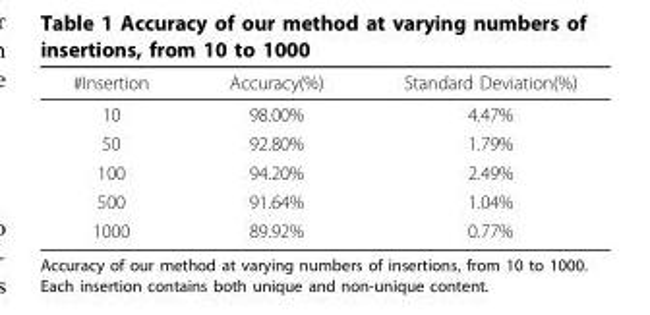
<table><thead><tr><td>#Insertion</td><td>Accuracy(%)</td><td>Standard Deviation(%)</td></tr></thead><tbody><tr><td>10</td><td>98.00%</td><td>4.47%</td></tr><tr><td>50</td><td>92.80%</td><td>1.79%</td></tr><tr><td>100</td><td>94.20%</td><td>2.49%</td></tr><tr><td>500</td><td>91.64%</td><td>1.04%</td></tr><tr><td>1000</td><td>89.92%</td><td>0.77%</td></tr></tbody></table>